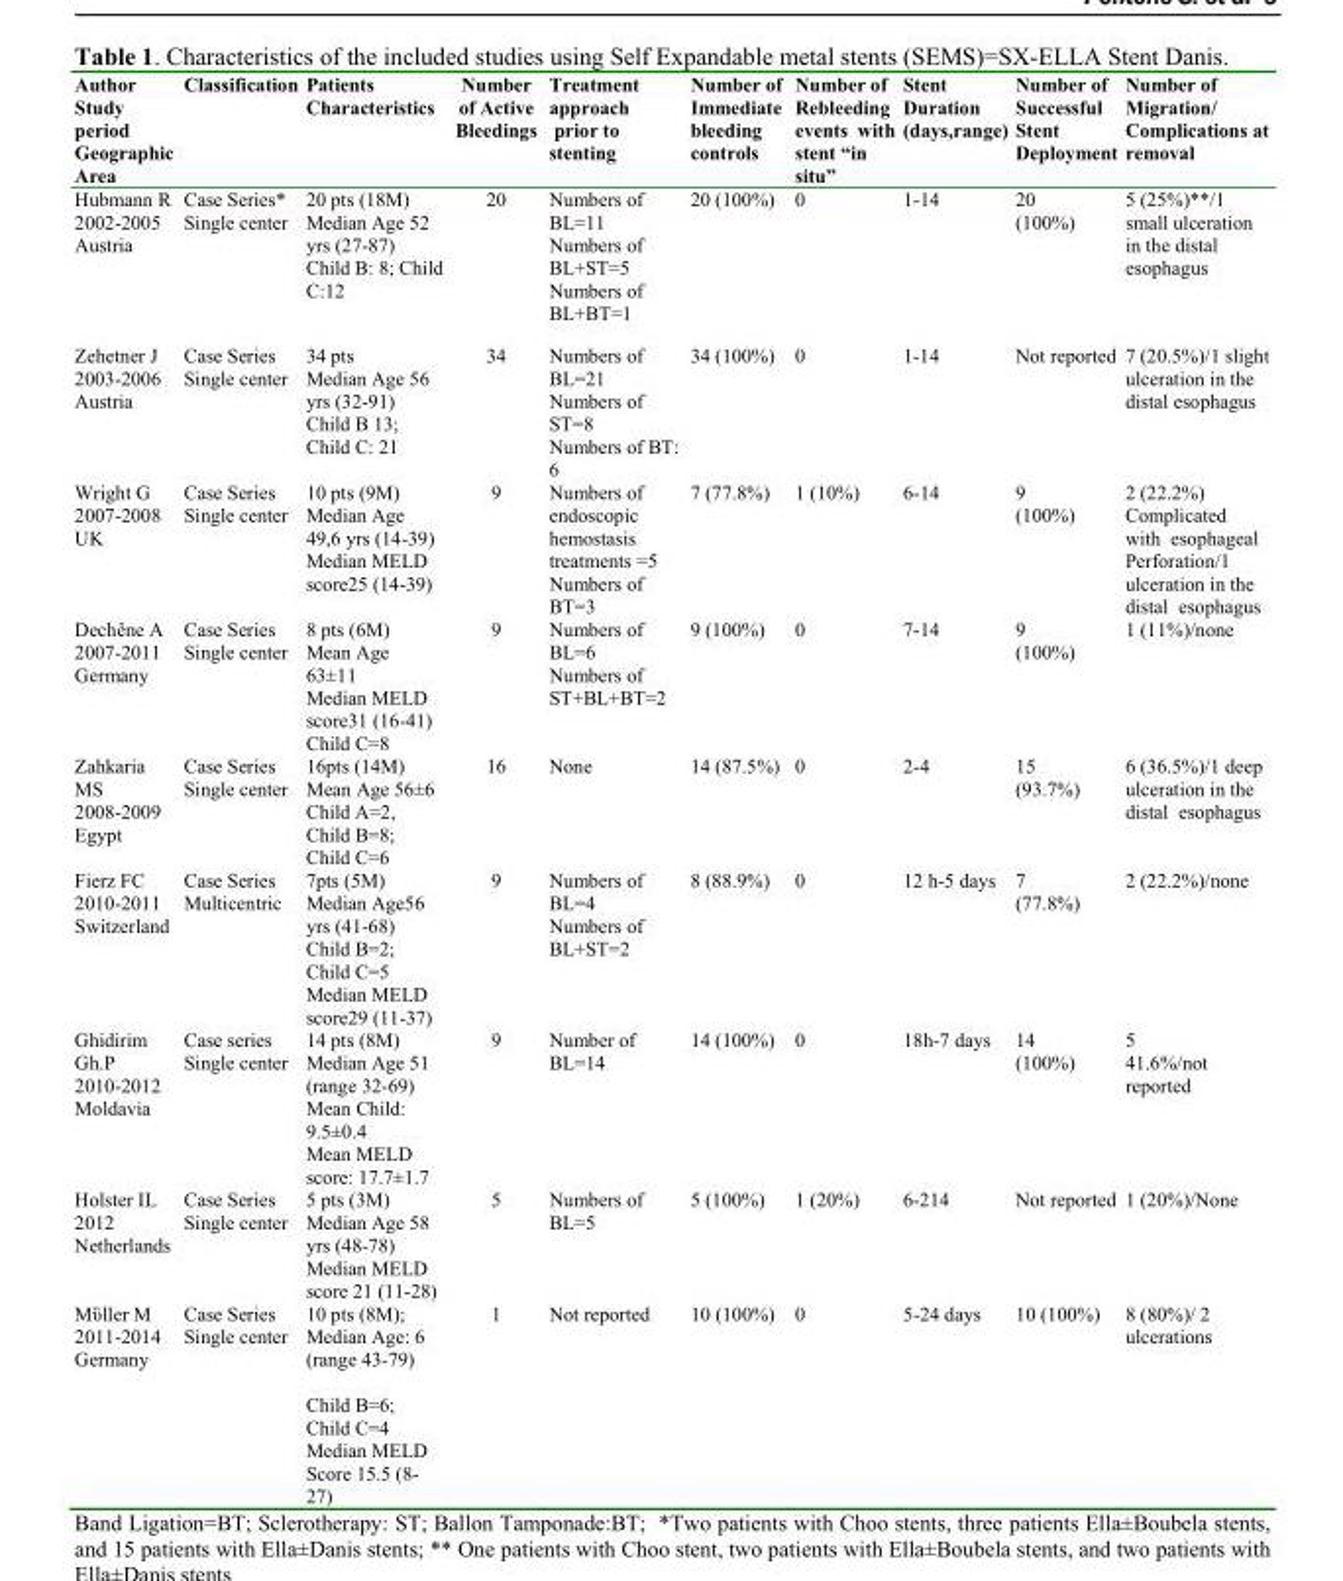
<table><thead><tr><td>Author Study period Geographic Area</td><td>Classification</td><td>Patients Characteristics</td><td>Number of Active Bleedings</td><td>Treatment approach prior to stenting</td><td>Number of Immediate bleeding controls</td><td>Number of Rebleeding events with stent “in situ”</td><td>Stent Duration (days,range)</td><td>Number of Successful Stent Deployment</td><td>Number of Migration/ Complications at removal</td></tr></thead><tbody><tr><td>Hubmann R 2002-2005 Austria</td><td>Case Series* Single center</td><td>20 pts (18M) Median Age 52 yrs (27-87) Child B: 8; Child C:12</td><td>20</td><td>Numbers of BL=11 Numbers of BL+ST=5 Numbers of BL+BT=1</td><td>20 (100%)</td><td>0</td><td>1-14</td><td>20 (100%)</td><td>5 (25%)**/1 small ulceration in the distal esophagus</td></tr><tr><td>Zehetner J 2003-2006 Austria</td><td>Case Series Single center</td><td>34 pts Median Age 56 yrs (32-91) Child B 13; Child C: 21</td><td>34</td><td>Numbers of BL=21 Numbers of ST=8 Numbers of BT: 6</td><td>34 (100%)</td><td>0</td><td>1-14</td><td>Not reported</td><td>7 (20.5%)/1 slight ulceration in the distal esophagus</td></tr><tr><td>Wright G 2007-2008 UK</td><td>Case Series Single center</td><td>10 pts (9M) Median Age 49,6 yrs (14-39) Median MELD score25 (14-39)</td><td>9</td><td>Numbers of endoscopic hemostasis treatments =5 Numbers of BT=3</td><td>7 (77.8%)</td><td>1 (10%)</td><td>6-14</td><td>9 (100%)</td><td>2 (22.2%) Complicated with esophageal Perforation/1 ulceration in the distal esophagus</td></tr><tr><td>Dechêne A 2007-2011 Germany</td><td>Case Series Single center</td><td>8 pts (6M) Mean Age 63±11 Median MELD score31 (16-41) Child C=8</td><td>9</td><td>Numbers of BL=6 Numbers of ST+BL+BT=2</td><td>9 (100%)</td><td>0</td><td>7-14</td><td>9 (100%)</td><td>1 (11%)/none</td></tr><tr><td>Zahkaria MS 2008-2009 Egypt</td><td>Case Series Single center</td><td>16pts (14M) Mean Age 56±6 Child A=2, Child B=8; Child C=6</td><td>16</td><td>None</td><td>14 (87.5%)</td><td>0</td><td>2-4</td><td>15 (93.7%)</td><td>6 (36.5%)/1 deep ulceration in the distal esophagus</td></tr><tr><td>Fierz FC 2010-2011 Switzerland</td><td>Case Series Multicentric</td><td>7pts (5M) Median Age56 yrs (41-68) Child B=2; Child C=5 Median MELD score29 (11-37)</td><td>9</td><td>Numbers of BL=4 Numbers of BL+ST=2</td><td>8 (88.9%)</td><td>0</td><td>12 h-5 days</td><td>7 (77.8%)</td><td>2 (22.2%)/none</td></tr><tr><td>Ghidirim Gh.P 2010-2012 Moldavia</td><td>Case series Single center</td><td>14 pts (8M) Median Age 51 (range 32-69) Mean Child: 9.5±0.4 Mean MELD score: 17.7±1.7</td><td>9</td><td>Number of BL=14</td><td>14 (100%)</td><td>0</td><td>18h-7 days</td><td>14 (100%)</td><td>5 41.6%/not reported</td></tr><tr><td>Holster IL 2012 Netherlands</td><td>Case Series Single center</td><td>5 pts (3M) Median Age 58 yrs (48-78) Median MELD score 21 (11-28)</td><td>5</td><td>Numbers of BL=5</td><td>5 (100%)</td><td>1 (20%)</td><td>6-214</td><td>Not reported</td><td>1 (20%)/None</td></tr><tr><td>Mὒller M 2011-2014 Germany</td><td>Case Series Single center</td><td>10 pts (8M); Median Age: 6 (range 43-79) Child B=6; Child C=4 Median MELD Score 15.5 (8- 27)</td><td>1</td><td>Not reported</td><td>10 (100%)</td><td>0</td><td>5-24 days</td><td>10 (100%)</td><td>8 (80%)/ 2 ulcerations</td></tr></tbody></table>